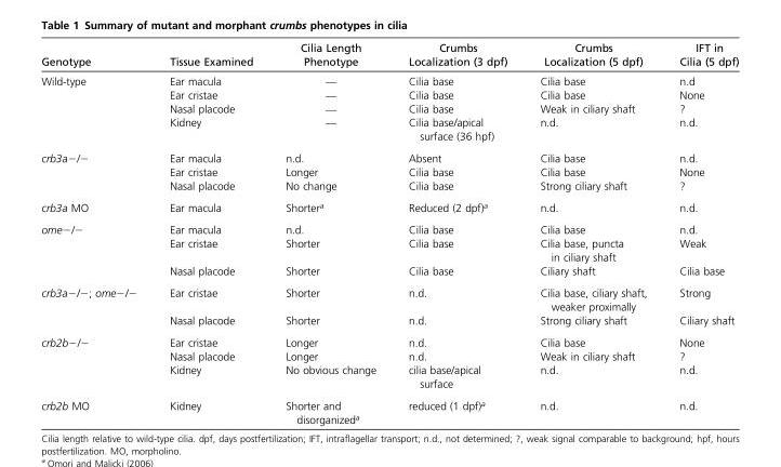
<table><thead><tr><td>Genotype</td><td>Tissue Examined</td><td>Cilia Length Phenotype</td><td>Crumbs Localization (3 dpf)</td><td>Crumbs Localization (5 dpf)</td><td>IFT in Cilia (5 dpf)</td></tr></thead><tbody><tr><td rowspan="4">Wild-type</td><td>Ear macula</td><td>—</td><td>Cilia base</td><td>Cilia base</td><td>n.d</td></tr><tr><td>Ear cristae</td><td>—</td><td>Cilia base</td><td>Cilia base</td><td>None</td></tr><tr><td>Nasal placode</td><td>—</td><td>Cilia base</td><td>Weak in ciliary shaft</td><td>?</td></tr><tr><td>Kidney</td><td>—</td><td>Cilia base/apical surface (36 hpf)</td><td>n.d.</td><td>n.d.</td></tr><tr><td rowspan="3">crb3a−/−</td><td>Ear macula</td><td>n.d.</td><td>Absent</td><td>Cilia base</td><td>n.d.</td></tr><tr><td>Ear cristae</td><td>Longer</td><td>Cilia base</td><td>Cilia base</td><td>None</td></tr><tr><td>Nasal placode</td><td>No change</td><td>Cilia base</td><td>Strong ciliary shaft</td><td>?</td></tr><tr><td>crb3a MO</td><td>Ear macula</td><td>Shorter<sup>a</sup></td><td>Reduced (2 dpf)<sup>a</sup></td><td>n.d.</td><td>n.d.</td></tr><tr><td rowspan="3">ome−/−</td><td>Ear macula</td><td>n.d.</td><td>Cilia base</td><td>Cilia base</td><td>n.d.</td></tr><tr><td>Ear cristae</td><td>Shorter</td><td>Cilia base</td><td>Cilia base, puncta in ciliary shaft</td><td>Weak</td></tr><tr><td>Nasal placode</td><td>Shorter</td><td>Cilia base</td><td>Ciliary shaft</td><td>Cilia base</td></tr><tr><td rowspan="2">crb3a−/−; ome−/−</td><td>Ear cristae</td><td>Shorter</td><td>n.d.</td><td>Cilia base, ciliary shaft, weaker proximally</td><td>Strong</td></tr><tr><td>Nasal placode</td><td>Shorter</td><td>n.d.</td><td>Strong ciliary shaft</td><td>Ciliary shaft</td></tr><tr><td rowspan="3">crb2b−/−</td><td>Ear cristae</td><td>Longer</td><td>n.d.</td><td>Cilia base</td><td>None</td></tr><tr><td>Nasal placode</td><td>Longer</td><td>n.d.</td><td>Weak in ciliary shaft</td><td>?</td></tr><tr><td>Kidney</td><td>No obvious change</td><td>cilia base/apical surface</td><td>n.d.</td><td>n.d.</td></tr><tr><td>crb2b MO</td><td>Kidney</td><td>Shorter and disorganized<sup>a</sup></td><td>reduced (1 dpf)<sup>a</sup></td><td>n.d.</td><td>n.d.</td></tr></tbody></table>